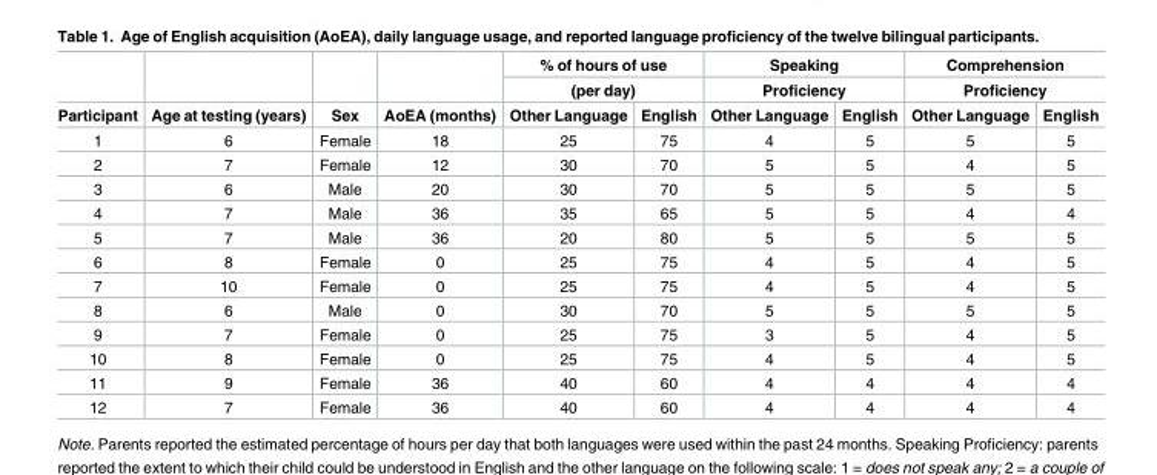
<table><thead><tr><td rowspan="3">Participant</td><td rowspan="3">Age at testing (years)</td><td rowspan="3">Sex</td><td rowspan="3">AoEA (months)</td><td rowspan="2" colspan="2">% of hours of use (per day)</td><td rowspan="2" colspan="2">Speaking Proficiency</td><td rowspan="2" colspan="2">Comprehension Proficiency</td></tr><tr></tr><tr><td>Other Language</td><td>English</td><td>Other Language</td><td>English</td><td>Other Language</td><td>English</td></tr></thead><tbody><tr><td>1</td><td>6</td><td>Female</td><td>18</td><td>25</td><td>75</td><td>4</td><td>5</td><td>5</td><td>5</td></tr><tr><td>2</td><td>7</td><td>Female</td><td>12</td><td>30</td><td>70</td><td>5</td><td>5</td><td>4</td><td>5</td></tr><tr><td>3</td><td>6</td><td>Male</td><td>20</td><td>30</td><td>70</td><td>5</td><td>5</td><td>5</td><td>5</td></tr><tr><td>4</td><td>7</td><td>Male</td><td>36</td><td>35</td><td>65</td><td>5</td><td>5</td><td>4</td><td>4</td></tr><tr><td>5</td><td>7</td><td>Male</td><td>36</td><td>20</td><td>80</td><td>5</td><td>5</td><td>5</td><td>5</td></tr><tr><td>6</td><td>8</td><td>Female</td><td>0</td><td>25</td><td>75</td><td>4</td><td>5</td><td>4</td><td>5</td></tr><tr><td>7</td><td>10</td><td>Female</td><td>0</td><td>25</td><td>75</td><td>4</td><td>5</td><td>4</td><td>5</td></tr><tr><td>8</td><td>6</td><td>Male</td><td>0</td><td>30</td><td>70</td><td>5</td><td>5</td><td>5</td><td>5</td></tr><tr><td>9</td><td>7</td><td>Female</td><td>0</td><td>25</td><td>75</td><td>3</td><td>5</td><td>4</td><td>5</td></tr><tr><td>10</td><td>8</td><td>Female</td><td>0</td><td>25</td><td>75</td><td>4</td><td>5</td><td>4</td><td>5</td></tr><tr><td>11</td><td>9</td><td>Female</td><td>36</td><td>40</td><td>60</td><td>4</td><td>4</td><td>4</td><td>4</td></tr><tr><td>12</td><td>7</td><td>Female</td><td>36</td><td>40</td><td>60</td><td>4</td><td>4</td><td>4</td><td>4</td></tr></tbody></table>